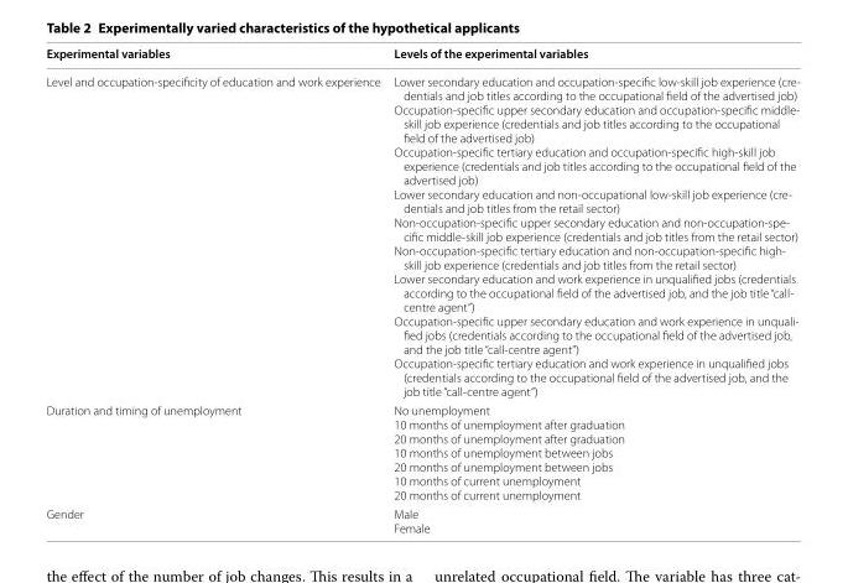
<table><thead><tr><td>Experimental variables</td><td>Levels of the experimental variables</td></tr></thead><tbody><tr><td>Level and occupation-specificity of education and work experience</td><td>Lower secondary education and occupation-specific low-skill job experience (cre- dentials and job titles according to the occupational field of the advertised job) Occupation-specific upper secondary education and occupation-specific middle- skill job experience (credentials and job titles according to the occupational field of the advertised job) Occupation-specific tertiary education and occupation-specific high-skill job experience (credentials and job titles according to the occupational field of the advertised job) Lower secondary education and non-occupational low-skill job experience (cre- dentials and job titles from the retail sector) Non-occupation-specific upper secondary education and non-occupation-spe- cific middle-skill job experience (credentials and job titles from the retail sector) Non-occupation-specific tertiary education and non-occupation-specific high- skill job experience (credentials and job titles from the retail sector) Lower secondary education and work experience in unqualified jobs (credentials according to the occupational field of the advertised job, and the job title “call- centre agent”) Occupation-specific upper secondary education and work experience in unquali- fied jobs (credentials according to the occupational field of the advertised job, and the job title “call-centre agent”) Occupation-specific tertiary education and work experience in unqualified jobs (credentials according to the occupational field of the advertised job, and the job title “call-centre agent”)</td></tr><tr><td>Duration and timing of unemployment</td><td>No unemployment 10 months of unemployment after graduation 20 months of unemployment after graduation 10 months of unemployment between jobs 20 months of unemployment between jobs 10 months of current unemployment 20 months of current unemployment</td></tr><tr><td>Gender</td><td>Male Female</td></tr></tbody></table>